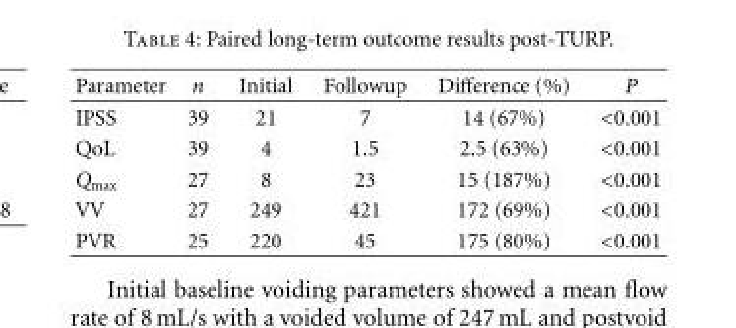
<table><thead><tr><td>Parameter</td><td>n</td><td>Initial</td><td>Followup</td><td>Difference (%)</td><td>P</td></tr></thead><tbody><tr><td>IPSS</td><td>39</td><td>21</td><td>7</td><td>14 (67%)</td><td>&lt;0.001</td></tr><tr><td>QoL</td><td>39</td><td>4</td><td>1.5</td><td>2.5 (63%)</td><td>&lt;0.001</td></tr><tr><td>Q<sub>max</sub></td><td>27</td><td>8</td><td>23</td><td>15 (187%)</td><td>&lt;0.001</td></tr><tr><td>VV</td><td>27</td><td>249</td><td>421</td><td>172 (69%)</td><td>&lt;0.001</td></tr><tr><td>PVR</td><td>25</td><td>220</td><td>45</td><td>175 (80%)</td><td>&lt;0.001</td></tr></tbody></table>